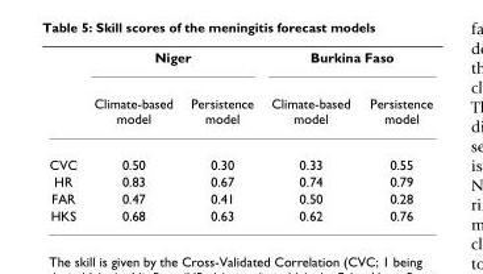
<table><thead><tr><td rowspan="2"></td><td colspan="2">Niger</td><td colspan="2">Burkina Faso</td></tr><tr><td>Climate-based model</td><td>Persistence model</td><td>Climate-based model</td><td>Persistence model</td></tr></thead><tbody><tr><td>CVC</td><td>0.50</td><td>0.30</td><td>0.33</td><td>0.55</td></tr><tr><td>HR</td><td>0.83</td><td>0.67</td><td>0.74</td><td>0.79</td></tr><tr><td>FAR</td><td>0.47</td><td>0.41</td><td>0.50</td><td>0.28</td></tr><tr><td>HKS</td><td>0.68</td><td>0.63</td><td>0.62</td><td>0.76</td></tr></tbody></table>